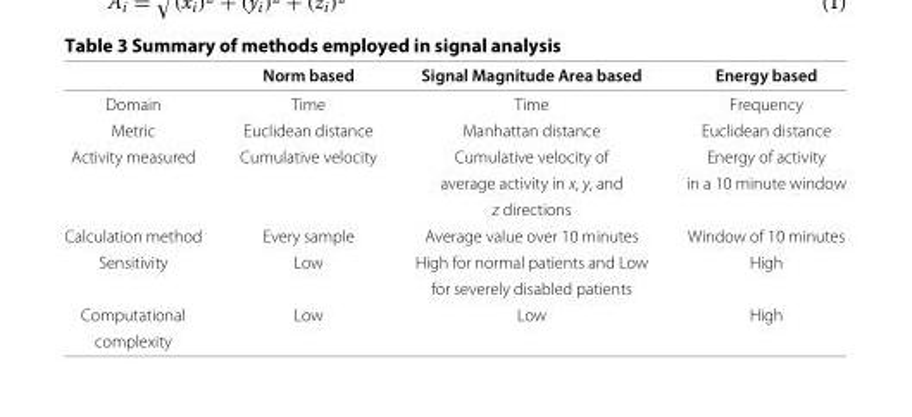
<table><thead><tr><td></td><td>Norm based</td><td>Signal Magnitude Area based</td><td>Energy based</td></tr></thead><tbody><tr><td>Domain</td><td>Time</td><td>Time</td><td>Frequency</td></tr><tr><td>Metric</td><td>Euclidean distance</td><td>Manhattan distance</td><td>Euclidean distance</td></tr><tr><td rowspan="3">Activity measured</td><td>Cumulative velocity</td><td>Cumulative velocity of</td><td>Energy of activity</td></tr><tr><td></td><td>average activity in x, y, and</td><td>in a 10 minute window</td></tr><tr><td></td><td>z directions</td><td></td></tr><tr><td>Calculation method</td><td>Every sample</td><td>Average value over 10 minutes</td><td>Window of 10 minutes</td></tr><tr><td rowspan="2">Sensitivity</td><td>Low</td><td>High for normal patients and Low</td><td>High</td></tr><tr><td></td><td>for severely disabled patients</td><td></td></tr><tr><td>Computational</td><td>Low</td><td>Low</td><td>High</td></tr><tr><td>complexity</td><td></td><td></td><td></td></tr></tbody></table>